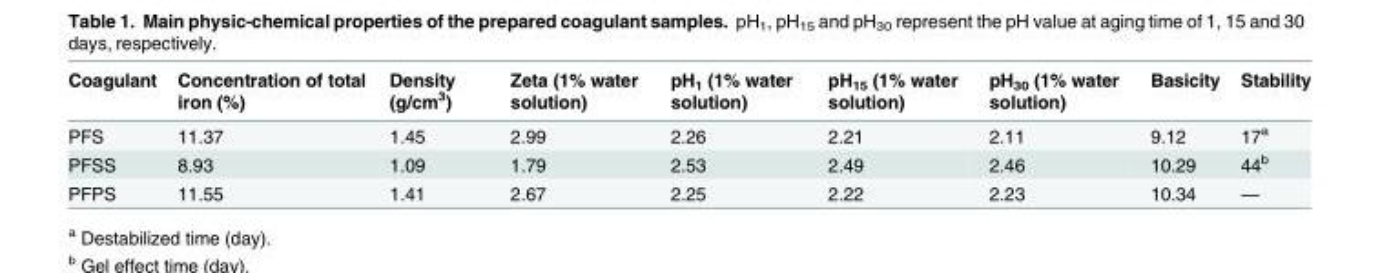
<table><thead><tr><td>Coagulant</td><td>Concentration of total iron (%)</td><td>Density (g/cm<sup>3</sup>)</td><td>Zeta (1% water solution)</td><td>pH<sub>1</sub> (1% water solution)</td><td>pH<sub>15</sub> (1% water solution)</td><td>pH<sub>30</sub> (1% water solution)</td><td>Basicity</td><td>Stability</td></tr></thead><tbody><tr><td>PFS</td><td>11.37</td><td>1.45</td><td>2.99</td><td>2.26</td><td>2.21</td><td>2.11</td><td>9.12</td><td>17<sup>a</sup></td></tr><tr><td>PFSS</td><td>8.93</td><td>1.09</td><td>1.79</td><td>2.53</td><td>2.49</td><td>2.46</td><td>10.29</td><td>44<sup>b</sup></td></tr><tr><td>PFPS</td><td>11.55</td><td>1.41</td><td>2.67</td><td>2.25</td><td>2.22</td><td>2.23</td><td>10.34</td><td>—</td></tr></tbody></table>